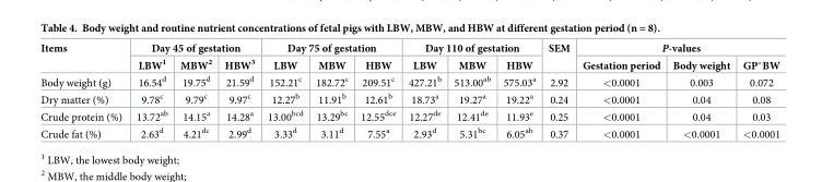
<table><thead><tr><td rowspan="2">Items</td><td colspan="3">Day 45 of gestation</td><td colspan="3">Day 75 of gestation</td><td colspan="3">Day 110 of gestation</td><td rowspan="2">SEM</td><td colspan="3">P-values</td></tr><tr><td>LBW<sup>1</sup></td><td>MBW<sup>2</sup></td><td>HBW<sup>3</sup></td><td>LBW</td><td>MBW</td><td>HBW</td><td>LBW</td><td>MBW</td><td>HBW</td><td>Gestation period</td><td>Body weight</td><td>GP*BW</td></tr></thead><tbody><tr><td>Body weight (g)</td><td>16.54<sup>d</sup></td><td>19.75<sup>d</sup></td><td>21.59<sup>d</sup></td><td>152.21<sup>c</sup></td><td>182.72<sup>c</sup></td><td>209.51<sup>c</sup></td><td>427.21<sup>b</sup></td><td>513.00<sup>ab</sup></td><td>575.03<sup>a</sup></td><td>2.92</td><td>&lt;0.0001</td><td>0.003</td><td>0.072</td></tr><tr><td>Dry matter (%)</td><td>9.78<sup>c</sup></td><td>9.79<sup>c</sup></td><td>9.97<sup>c</sup></td><td>12.27<sup>b</sup></td><td>11.91<sup>b</sup></td><td>12.61<sup>b</sup></td><td>18.73<sup>a</sup></td><td>19.27<sup>a</sup></td><td>19.22<sup>a</sup></td><td>0.24</td><td>&lt;0.0001</td><td>0.04</td><td>0.08</td></tr><tr><td>Crude protein (%)</td><td>13.72<sup>ab</sup></td><td>14.15<sup>a</sup></td><td>14.28<sup>a</sup></td><td>13.00<sup>bcd</sup></td><td>13.29<sup>bc</sup></td><td>12.55<sup>dce</sup></td><td>12.27<sup>de</sup></td><td>12.41<sup>de</sup></td><td>11.93<sup>e</sup></td><td>0.25</td><td>&lt;0.0001</td><td>0.04</td><td>0.03</td></tr><tr><td>Crude fat (%)</td><td>2.63<sup>d</sup></td><td>4.21<sup>dc</sup></td><td>2.99<sup>d</sup></td><td>3.33<sup>d</sup></td><td>3.11<sup>d</sup></td><td>7.55<sup>a</sup></td><td>2.93<sup>d</sup></td><td>5.31<sup>bc</sup></td><td>6.05<sup>ab</sup></td><td>0.37</td><td>&lt;0.0001</td><td>&lt;0.0001</td><td>&lt;0.0001</td></tr></tbody></table>